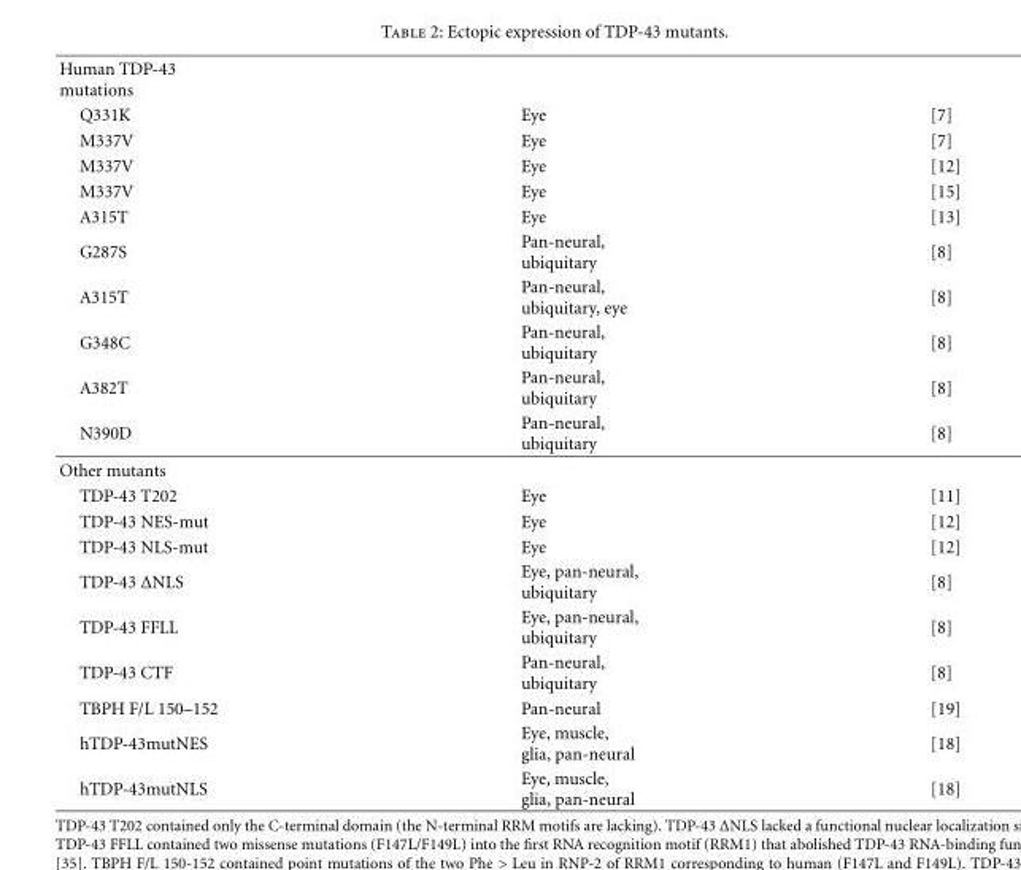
<table><tbody><tr><td colspan="3">Human TDP-43 mutations</td></tr><tr><td>Q331K</td><td>Eye</td><td>[7]</td></tr><tr><td>M337V</td><td>Eye</td><td>[7]</td></tr><tr><td>M337V</td><td>Eye</td><td>[12]</td></tr><tr><td>M337V</td><td>Eye</td><td>[15]</td></tr><tr><td>A315T</td><td>Eye</td><td>[13]</td></tr><tr><td>G287S</td><td>Pan-neural, ubiquitary</td><td>[8]</td></tr><tr><td>A315T</td><td>Pan-neural, ubiquitary, eye</td><td>[8]</td></tr><tr><td>G348C</td><td>Pan-neural, ubiquitary</td><td>[8]</td></tr><tr><td>A382T</td><td>Pan-neural, ubiquitary</td><td>[8]</td></tr><tr><td>N390D</td><td>Pan-neural, ubiquitary</td><td>[8]</td></tr><tr><td colspan="3">Other mutants</td></tr><tr><td>TDP-43 T202</td><td>Eye</td><td>[11]</td></tr><tr><td>TDP-43 NES-mut</td><td>Eye</td><td>[12]</td></tr><tr><td>TDP-43 NLS-mut</td><td>Eye</td><td>[12]</td></tr><tr><td>TDP-43 ΔNLS</td><td>Eye, pan-neural, ubiquitary</td><td>[8]</td></tr><tr><td>TDP-43 FFLL</td><td>Eye, pan-neural, ubiquitary</td><td>[8]</td></tr><tr><td>TDP-43 CTF</td><td>Pan-neural, ubiquitary</td><td>[8]</td></tr><tr><td>TBPH F/L 150–152</td><td>Pan-neural</td><td>[19]</td></tr><tr><td>hTDP-43mutNES</td><td>Eye, muscle, glia, pan-neural</td><td>[18]</td></tr><tr><td>hTDP-43mutNLS</td><td>Eye, muscle, glia, pan-neural</td><td>[18]</td></tr></tbody></table>